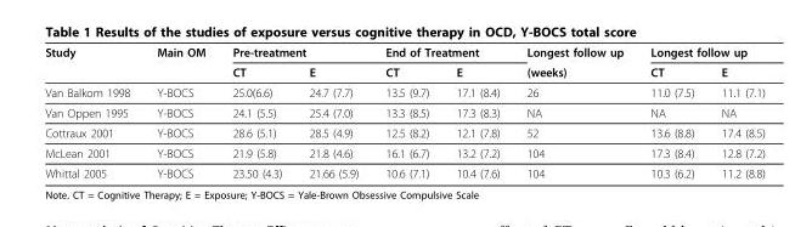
<table><thead><tr><td rowspan="2">Study</td><td rowspan="2">Main OM</td><td colspan="2">Pre-treatment</td><td colspan="2">End of Treatment</td><td rowspan="2">Longest follow up (weeks)</td><td colspan="2">Longest follow up</td></tr><tr><td>CT</td><td>E</td><td>CT</td><td>E</td><td>CT</td><td>E</td></tr></thead><tbody><tr><td>Van Balkom 1998</td><td>Y-BOCS</td><td>25.0(6.6)</td><td>24.7 (7.7)</td><td>13.5 (9.7)</td><td>17.1 (8.4)</td><td>26</td><td>11.0 (7.5)</td><td>11.1 (7.1)</td></tr><tr><td>Van Oppen 1995</td><td>Y-BOCS</td><td>24.1 (5.5)</td><td>25.4 (7.0)</td><td>13.3 (8.5)</td><td>17.3 (8.3)</td><td>NA</td><td>NA</td><td>NA</td></tr><tr><td>Cottraux 2001</td><td>Y-BOCS</td><td>28.6 (5.1)</td><td>28.5 (4.9)</td><td>12.5 (8.2)</td><td>12.1 (7.8)</td><td>52</td><td>13.6 (8.8)</td><td>17.4 (8.5)</td></tr><tr><td>McLean 2001</td><td>Y-BOCS</td><td>21.9 (5.8)</td><td>21.8 (4.6)</td><td>16.1 (6.7)</td><td>13.2 (7.2)</td><td>104</td><td>17.3 (8.4)</td><td>12.8 (7.2)</td></tr><tr><td>Whittal 2005</td><td>Y-BOCS</td><td>23.50 (4.3)</td><td>21.66 (5.9)</td><td>10.6 (7.1)</td><td>10.4 (7.6)</td><td>104</td><td>10.3 (6.2)</td><td>11.2 (8.8)</td></tr></tbody></table>